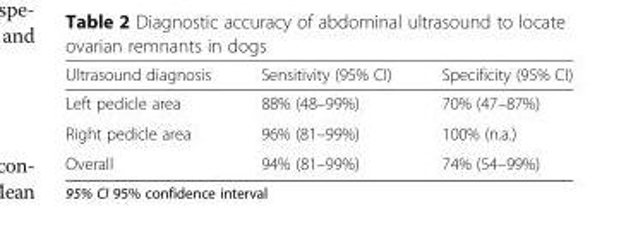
<table><thead><tr><td>Ultrasound diagnosis</td><td>Sensitivity (95% CI)</td><td>Specificity (95% CI)</td></tr></thead><tbody><tr><td>Left pedicle area</td><td>88% (48–99%)</td><td>70% (47–87%)</td></tr><tr><td>Right pedicle area</td><td>96% (81–99%)</td><td>100% (n.a.)</td></tr><tr><td>Overall</td><td>94% (81–99%)</td><td>74% (54–99%)</td></tr></tbody></table>